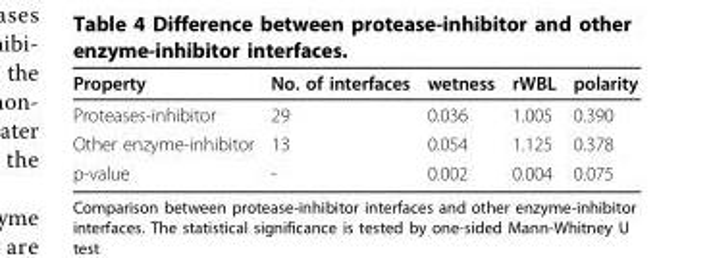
<table><thead><tr><td>Property</td><td>No. of interfaces</td><td>wetness</td><td>rWBL</td><td>polarity</td></tr></thead><tbody><tr><td>Proteases-inhibitor</td><td>29</td><td>0.036</td><td>1.005</td><td>0.390</td></tr><tr><td>Other enzyme-inhibitor</td><td>13</td><td>0.054</td><td>1.125</td><td>0.378</td></tr><tr><td>p-value</td><td>-</td><td>0.002</td><td>0.004</td><td>0.075</td></tr></tbody></table>